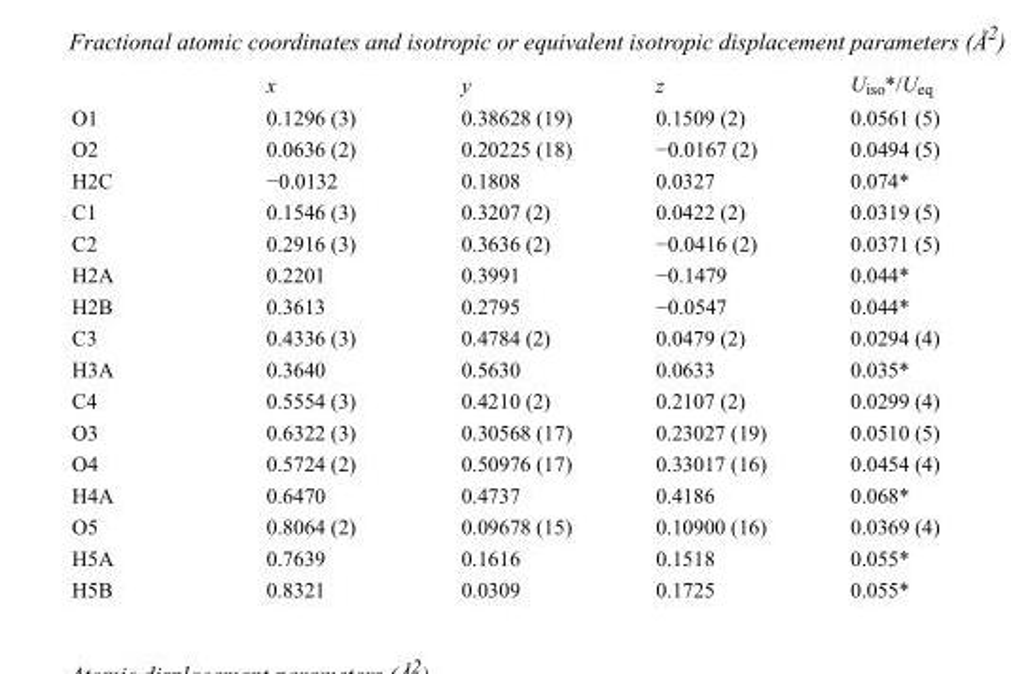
<table><thead><tr><td></td><td>x</td><td>y</td><td>z</td><td>U<sub>iso</sub>*/U<sub>eq</sub></td></tr></thead><tbody><tr><td>O1</td><td>0.1296 (3)</td><td>0.38628 (19)</td><td>0.1509 (2)</td><td>0.0561 (5)</td></tr><tr><td>O2</td><td>0.0636 (2)</td><td>0.20225 (18)</td><td>−0.0167 (2)</td><td>0.0494 (5)</td></tr><tr><td>H2C</td><td>−0.0132</td><td>0.1808</td><td>0.0327</td><td>0.074*</td></tr><tr><td>C1</td><td>0.1546 (3)</td><td>0.3207 (2)</td><td>0.0422 (2)</td><td>0.0319 (5)</td></tr><tr><td>C2</td><td>0.2916 (3)</td><td>0.3636 (2)</td><td>−0.0416 (2)</td><td>0.0371 (5)</td></tr><tr><td>H2A</td><td>0.2201</td><td>0.3991</td><td>−0.1479</td><td>0.044*</td></tr><tr><td>H2B</td><td>0.3613</td><td>0.2795</td><td>−0.0547</td><td>0.044*</td></tr><tr><td>C3</td><td>0.4336 (3)</td><td>0.4784 (2)</td><td>0.0479 (2)</td><td>0.0294 (4)</td></tr><tr><td>H3A</td><td>0.3640</td><td>0.5630</td><td>0.0633</td><td>0.035*</td></tr><tr><td>C4</td><td>0.5554 (3)</td><td>0.4210 (2)</td><td>0.2107 (2)</td><td>0.0299 (4)</td></tr><tr><td>O3</td><td>0.6322 (3)</td><td>0.30568 (17)</td><td>0.23027 (19)</td><td>0.0510 (5)</td></tr><tr><td>O4</td><td>0.5724 (2)</td><td>0.50976 (17)</td><td>0.33017 (16)</td><td>0.0454 (4)</td></tr><tr><td>H4A</td><td>0.6470</td><td>0.4737</td><td>0.4186</td><td>0.068*</td></tr><tr><td>O5</td><td>0.8064 (2)</td><td>0.09678 (15)</td><td>0.10900 (16)</td><td>0.0369 (4)</td></tr><tr><td>H5A</td><td>0.7639</td><td>0.1616</td><td>0.1518</td><td>0.055*</td></tr><tr><td>H5B</td><td>0.8321</td><td>0.0309</td><td>0.1725</td><td>0.055*</td></tr></tbody></table>